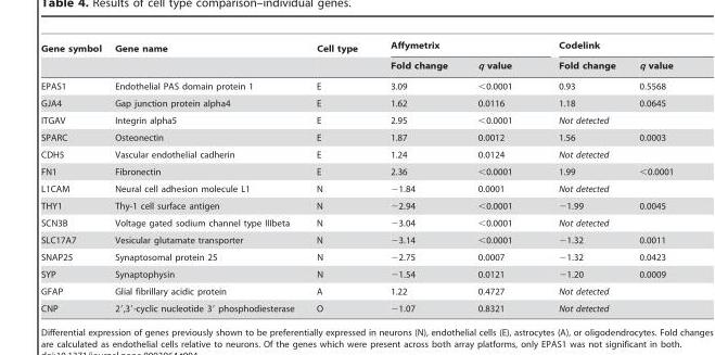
<table><thead><tr><td rowspan="2">Gene symbol</td><td rowspan="2">Gene name</td><td rowspan="2">Cell type</td><td colspan="2">Affymetrix</td><td colspan="2">Codelink</td></tr><tr><td>Fold change</td><td>q value</td><td>Fold change</td><td>q value</td></tr></thead><tbody><tr><td>EPAS1</td><td>Endothelial PAS domain protein 1</td><td>E</td><td>3.09</td><td>&lt;0.0001</td><td>0.93</td><td>0.5568</td></tr><tr><td>GJA4</td><td>Gap junction protein alpha4</td><td>E</td><td>1.62</td><td>0.0116</td><td>1.18</td><td>0.0645</td></tr><tr><td>ITGAV</td><td>Integrin alpha5</td><td>E</td><td>2.95</td><td>&lt;0.0001</td><td colspan="2">Not detected</td></tr><tr><td>SPARC</td><td>Osteonectin</td><td>E</td><td>1.87</td><td>0.0012</td><td>1.56</td><td>0.0003</td></tr><tr><td>CDH5</td><td>Vascular endothelial cadherin</td><td>E</td><td>1.24</td><td>0.0124</td><td colspan="2">Not detected</td></tr><tr><td>FN1</td><td>Fibronectin</td><td>E</td><td>2.36</td><td>&lt;0.0001</td><td>1.99</td><td>&lt;0.0001</td></tr><tr><td>L1CAM</td><td>Neural cell adhesion molecule L1</td><td>N</td><td>−1.84</td><td>0.0001</td><td colspan="2">Not detected</td></tr><tr><td>THY1</td><td>Thy-1 cell surface antigen</td><td>N</td><td>−2.94</td><td>&lt;0.0001</td><td>−1.99</td><td>0.0045</td></tr><tr><td>SCN3B</td><td>Voltage gated sodium channel type IIIbeta</td><td>N</td><td>−3.04</td><td>&lt;0.0001</td><td colspan="2">Not detected</td></tr><tr><td>SLC17A7</td><td>Vesicular glutamate transporter</td><td>N</td><td>−3.14</td><td>&lt;0.0001</td><td>−1.32</td><td>0.0011</td></tr><tr><td>SNAP25</td><td>Synaptosomal protein 25</td><td>N</td><td>−2.75</td><td>0.0007</td><td>−1.32</td><td>0.0423</td></tr><tr><td>SYP</td><td>Synaptophysin</td><td>N</td><td>−1.54</td><td>0.0121</td><td>−1.20</td><td>0.0009</td></tr><tr><td>GFAP</td><td>Glial fibrillary acidic protein</td><td>A</td><td>1.22</td><td>0.4727</td><td colspan="2">Not detected</td></tr><tr><td>CNP</td><td>2′,3′-cyclic nucleotide 3′ phosphodiesterase</td><td>O</td><td>−1.07</td><td>0.8321</td><td colspan="2">Not detected</td></tr></tbody></table>